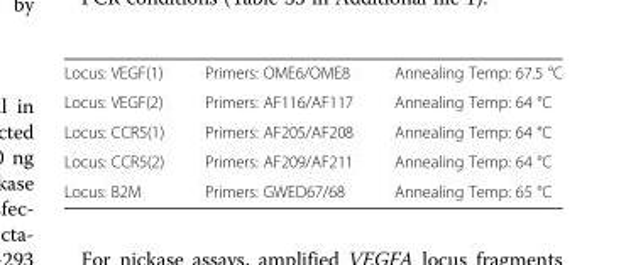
<table><tbody><tr><td>Locus: VEGF(1)</td><td>Primers: OME6/OME8</td><td>Annealing Temp: 67.5 °C</td></tr><tr><td>Locus: VEGF(2)</td><td>Primers: AF116/AF117</td><td>Annealing Temp: 64 °C</td></tr><tr><td>Locus: CCR5(1)</td><td>Primers: AF205/AF208</td><td>Annealing Temp: 64 °C</td></tr><tr><td>Locus: CCR5(2)</td><td>Primers: AF209/AF211</td><td>Annealing Temp: 64 °C</td></tr><tr><td>Locus: B2M</td><td>Primers: GWED67/68</td><td>Annealing Temp: 65 °C</td></tr></tbody></table>